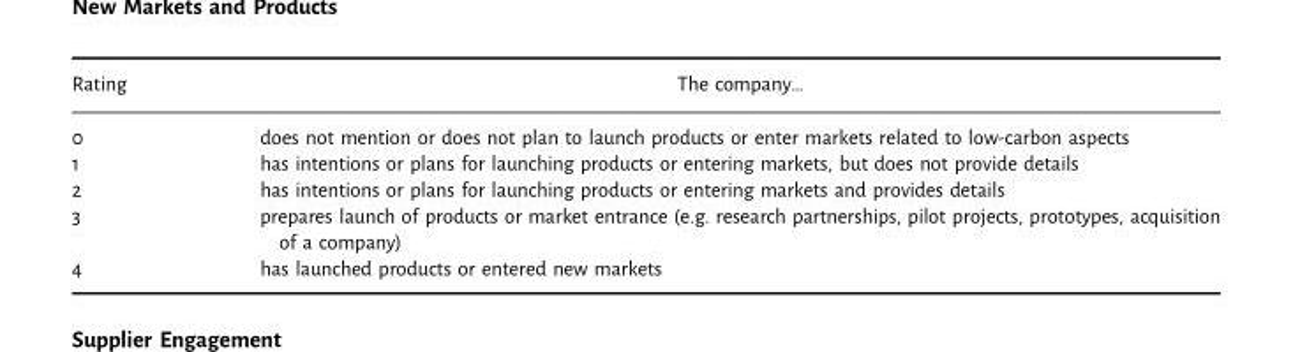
<table><thead><tr><td>Rating</td><td>The company…</td></tr></thead><tbody><tr><td>0</td><td>does not mention or does not plan to launch products or enter markets related to low-carbon aspects</td></tr><tr><td>1</td><td>has intentions or plans for launching products or entering markets, but does not provide details</td></tr><tr><td>2</td><td>has intentions or plans for launching products or entering markets and provides details</td></tr><tr><td>3</td><td>prepares launch of products or market entrance (e.g. research partnerships, pilot projects, prototypes, acquisition of a company)</td></tr><tr><td>4</td><td>has launched products or entered new markets</td></tr></tbody></table>